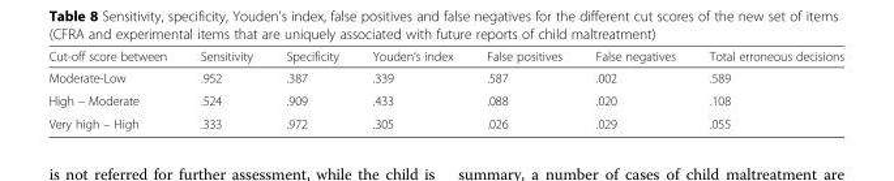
<table><thead><tr><td>Cut-off score between</td><td>Sensitivity</td><td>Specificity</td><td>Youden’s index</td><td>False positives</td><td>False negatives</td><td>Total erroneous decisions</td></tr></thead><tbody><tr><td>Moderate-Low</td><td>.952</td><td>.387</td><td>.339</td><td>.587</td><td>.002</td><td>.589</td></tr><tr><td>High – Moderate</td><td>.524</td><td>.909</td><td>.433</td><td>.088</td><td>.020</td><td>.108</td></tr><tr><td>Very high – High</td><td>.333</td><td>.972</td><td>.305</td><td>.026</td><td>.029</td><td>.055</td></tr></tbody></table>